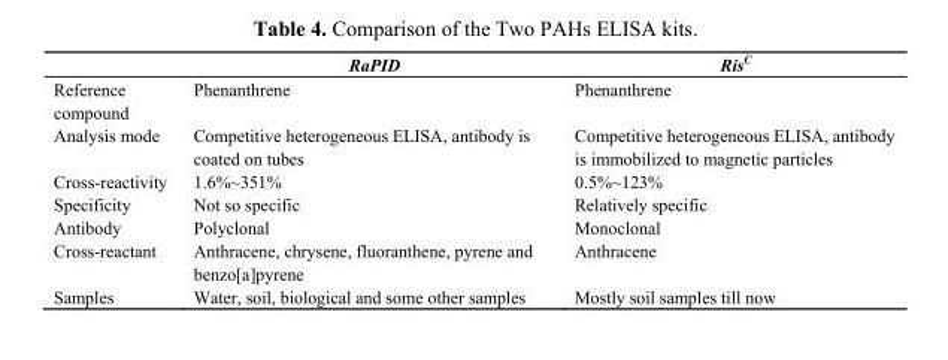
<table><thead><tr><td></td><td>RaPID</td><td>Ris<sup>C</sup></td></tr></thead><tbody><tr><td>Reference compound</td><td>Phenanthrene</td><td>Phenanthrene</td></tr><tr><td>Analysis mode</td><td>Competitive heterogeneous ELISA, antibody is coated on tubes</td><td>Competitive heterogeneous ELISA, antibody is immobilized to magnetic particles</td></tr><tr><td>Cross-reactivity</td><td>1.6%~351%</td><td>0.5%~123%</td></tr><tr><td>Specificity</td><td>Not so specific</td><td>Relatively specific</td></tr><tr><td>Antibody</td><td>Polyclonal</td><td>Monoclonal</td></tr><tr><td>Cross-reactant</td><td>Anthracene, chrysene, fluoranthene, pyrene and benzo[a]pyrene</td><td>Anthracene</td></tr><tr><td>Samples</td><td>Water, soil, biological and some other samples</td><td>Mostly soil samples till now</td></tr></tbody></table>